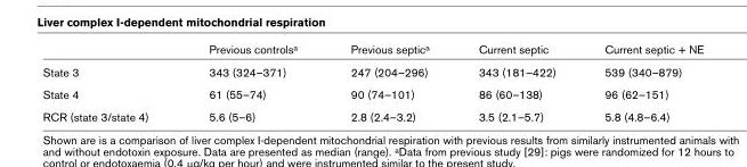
<table><thead><tr><td></td><td>Previous controls<sup>a</sup></td><td>Previous septic<sup>a</sup></td><td>Current septic</td><td>Current septic + NE</td></tr></thead><tbody><tr><td>State 3</td><td>343 (324–371)</td><td>247 (204–296)</td><td>343 (181–422)</td><td>539 (340–879)</td></tr><tr><td>State 4</td><td>61 (55–74)</td><td>90 (74–101)</td><td>86 (60–138)</td><td>96 (62–151)</td></tr><tr><td>RCR (state 3/state 4)</td><td>5.6 (5–6)</td><td>2.8 (2.4–3.2)</td><td>3.5 (2.1–5.7)</td><td>5.8 (4.8–6.4)</td></tr></tbody></table>